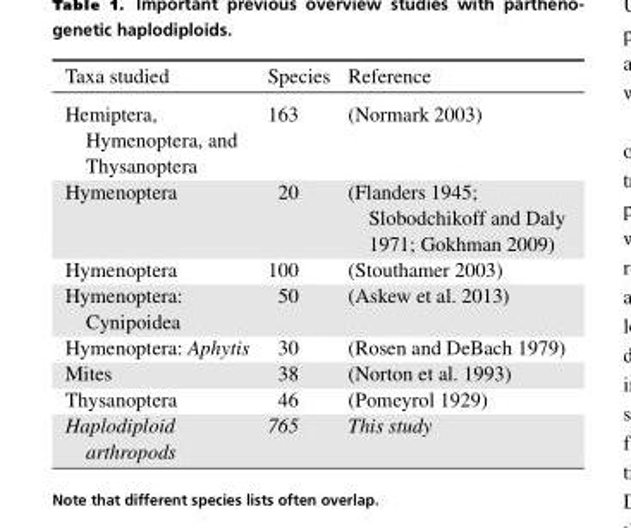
<table><thead><tr><td>Taxa studied</td><td>Species</td><td>Reference</td></tr></thead><tbody><tr><td>Hemiptera, Hymenoptera, and Thysanoptera</td><td>163</td><td>(Normark 2003)</td></tr><tr><td>Hymenoptera</td><td>20</td><td>(Flanders 1945; Slobodchikoff and Daly 1971; Gokhman 2009)</td></tr><tr><td>Hymenoptera</td><td>100</td><td>(Stouthamer 2003)</td></tr><tr><td>Hymenoptera: Cynipoidea</td><td>50</td><td>(Askew et al. 2013)</td></tr><tr><td>Hymenoptera: Aphytis</td><td>30</td><td>(Rosen and DeBach 1979)</td></tr><tr><td>Mites</td><td>38</td><td>(Norton et al. 1993)</td></tr><tr><td>Thysanoptera</td><td>46</td><td>(Pomeyrol 1929)</td></tr><tr><td>Haplodiploid arthropods</td><td>765</td><td>This study</td></tr></tbody></table>